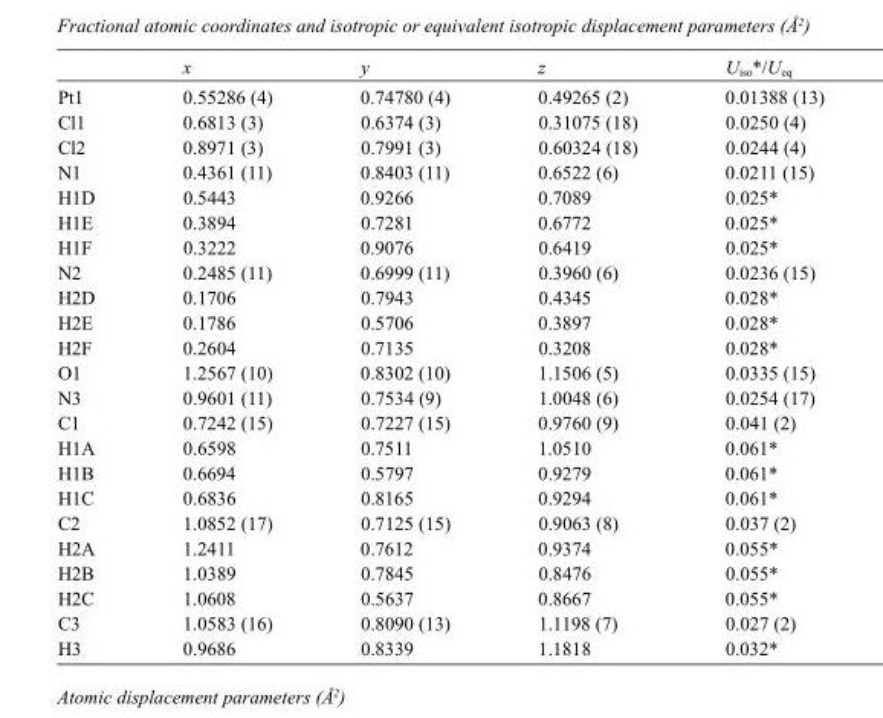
<table><thead><tr><td></td><td>x</td><td>y</td><td>z</td><td>U<sub>iso</sub>*/U<sub>eq</sub></td></tr></thead><tbody><tr><td>Pt1</td><td>0.55286 (4)</td><td>0.74780 (4)</td><td>0.49265 (2)</td><td>0.01388 (13)</td></tr><tr><td>Cl1</td><td>0.6813 (3)</td><td>0.6374 (3)</td><td>0.31075 (18)</td><td>0.0250 (4)</td></tr><tr><td>Cl2</td><td>0.8971 (3)</td><td>0.7991 (3)</td><td>0.60324 (18)</td><td>0.0244 (4)</td></tr><tr><td>N1</td><td>0.4361 (11)</td><td>0.8403 (11)</td><td>0.6522 (6)</td><td>0.0211 (15)</td></tr><tr><td>H1D</td><td>0.5443</td><td>0.9266</td><td>0.7089</td><td>0.025*</td></tr><tr><td>H1E</td><td>0.3894</td><td>0.7281</td><td>0.6772</td><td>0.025*</td></tr><tr><td>H1F</td><td>0.3222</td><td>0.9076</td><td>0.6419</td><td>0.025*</td></tr><tr><td>N2</td><td>0.2485 (11)</td><td>0.6999 (11)</td><td>0.3960 (6)</td><td>0.0236 (15)</td></tr><tr><td>H2D</td><td>0.1706</td><td>0.7943</td><td>0.4345</td><td>0.028*</td></tr><tr><td>H2E</td><td>0.1786</td><td>0.5706</td><td>0.3897</td><td>0.028*</td></tr><tr><td>H2F</td><td>0.2604</td><td>0.7135</td><td>0.3208</td><td>0.028*</td></tr><tr><td>O1</td><td>1.2567 (10)</td><td>0.8302 (10)</td><td>1.1506 (5)</td><td>0.0335 (15)</td></tr><tr><td>N3</td><td>0.9601 (11)</td><td>0.7534 (9)</td><td>1.0048 (6)</td><td>0.0254 (17)</td></tr><tr><td>C1</td><td>0.7242 (15)</td><td>0.7227 (15)</td><td>0.9760 (9)</td><td>0.041 (2)</td></tr><tr><td>H1A</td><td>0.6598</td><td>0.7511</td><td>1.0510</td><td>0.061*</td></tr><tr><td>H1B</td><td>0.6694</td><td>0.5797</td><td>0.9279</td><td>0.061*</td></tr><tr><td>H1C</td><td>0.6836</td><td>0.8165</td><td>0.9294</td><td>0.061*</td></tr><tr><td>C2</td><td>1.0852 (17)</td><td>0.7125 (15)</td><td>0.9063 (8)</td><td>0.037 (2)</td></tr><tr><td>H2A</td><td>1.2411</td><td>0.7612</td><td>0.9374</td><td>0.055*</td></tr><tr><td>H2B</td><td>1.0389</td><td>0.7845</td><td>0.8476</td><td>0.055*</td></tr><tr><td>H2C</td><td>1.0608</td><td>0.5637</td><td>0.8667</td><td>0.055*</td></tr><tr><td>C3</td><td>1.0583 (16)</td><td>0.8090 (13)</td><td>1.1198 (7)</td><td>0.027 (2)</td></tr><tr><td>H3</td><td>0.9686</td><td>0.8339</td><td>1.1818</td><td>0.032*</td></tr></tbody></table>